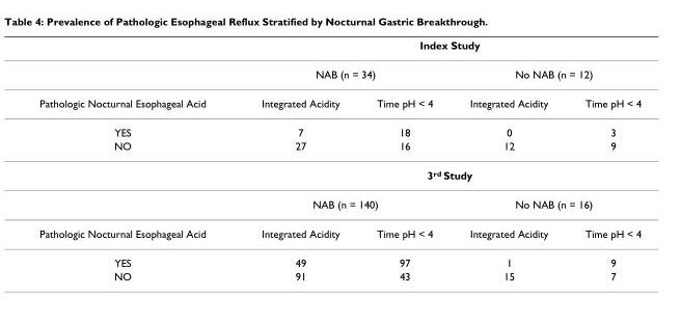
<table><thead><tr><td rowspan="3">Pathologic Nocturnal Esophageal Acid</td><td colspan="4">Index Study</td></tr><tr><td colspan="2">NAB (n = 34)</td><td colspan="2">No NAB (n = 12)</td></tr><tr><td>Integrated Acidity</td><td>Time pH &lt; 4</td><td>Integrated Acidity</td><td>Time pH &lt; 4</td></tr></thead><tbody><tr><td>YES</td><td>7</td><td>18</td><td>0</td><td>3</td></tr><tr><td rowspan="3">NO</td><td>27</td><td>16</td><td>12</td><td>9</td></tr><tr><td colspan="4">3<sup>rd</sup> Study</td></tr><tr><td colspan="2">NAB (n = 140)</td><td colspan="2">No NAB (n = 16)</td></tr><tr><td>Pathologic Nocturnal Esophageal Acid</td><td>Integrated Acidity</td><td>Time pH &lt; 4</td><td>Integrated Acidity</td><td>Time pH &lt; 4</td></tr><tr><td>YES</td><td>49</td><td>97</td><td>1</td><td>9</td></tr><tr><td>NO</td><td>91</td><td>43</td><td>15</td><td>7</td></tr></tbody></table>